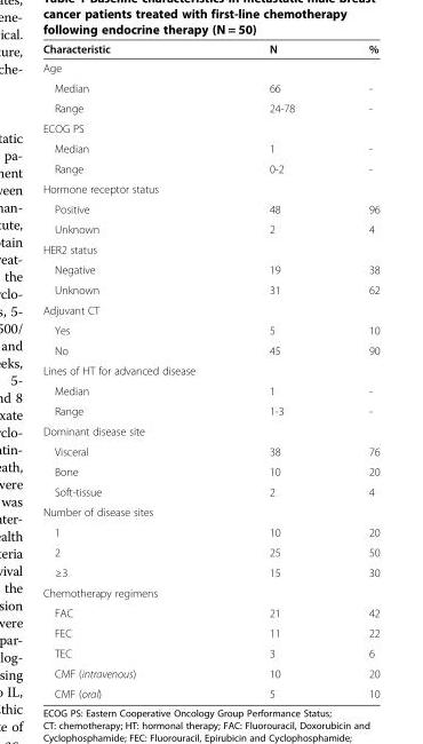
<table><thead><tr><td>Characteristic</td><td>N</td><td>%</td></tr></thead><tbody><tr><td colspan="3">Age</td></tr><tr><td>Median</td><td>66</td><td>-</td></tr><tr><td>Range</td><td>24-78</td><td>-</td></tr><tr><td colspan="3">ECOG PS</td></tr><tr><td>Median</td><td>1</td><td>-</td></tr><tr><td>Range</td><td>0-2</td><td>-</td></tr><tr><td colspan="3">Hormone receptor status</td></tr><tr><td>Positive</td><td>48</td><td>96</td></tr><tr><td>Unknown</td><td>2</td><td>4</td></tr><tr><td colspan="3">HER2 status</td></tr><tr><td>Negative</td><td>19</td><td>38</td></tr><tr><td>Unknown</td><td>31</td><td>62</td></tr><tr><td colspan="3">Adjuvant CT</td></tr><tr><td>Yes</td><td>5</td><td>10</td></tr><tr><td>No</td><td>45</td><td>90</td></tr><tr><td colspan="3">Lines of HT for advanced disease</td></tr><tr><td>Median</td><td>1</td><td>-</td></tr><tr><td>Range</td><td>1-3</td><td>-</td></tr><tr><td colspan="3">Dominant disease site</td></tr><tr><td>Visceral</td><td>38</td><td>76</td></tr><tr><td>Bone</td><td>10</td><td>20</td></tr><tr><td>Soft-tissue</td><td>2</td><td>4</td></tr><tr><td colspan="3">Number of disease sites</td></tr><tr><td>1</td><td>10</td><td>20</td></tr><tr><td>2</td><td>25</td><td>50</td></tr><tr><td>≥3</td><td>15</td><td>30</td></tr><tr><td colspan="3">Chemotherapy regimens</td></tr><tr><td>FAC</td><td>21</td><td>42</td></tr><tr><td>FEC</td><td>11</td><td>22</td></tr><tr><td>TEC</td><td>3</td><td>6</td></tr><tr><td>CMF (intravenous)</td><td>10</td><td>20</td></tr><tr><td>CMF (oral)</td><td>5</td><td>10</td></tr></tbody></table>